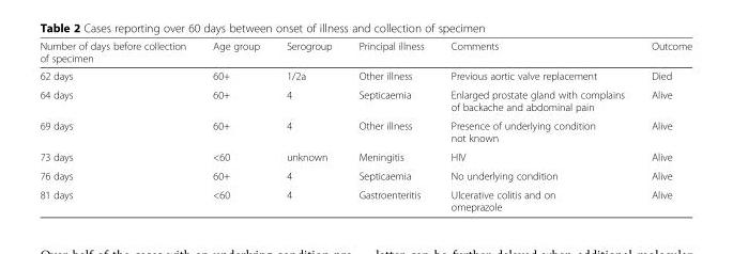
<table><thead><tr><td>Number of days before collection of specimen</td><td>Age group</td><td>Serogroup</td><td>Principal illness</td><td>Comments</td><td>Outcome</td></tr></thead><tbody><tr><td>62 days</td><td>60+</td><td>1/2a</td><td>Other illness</td><td>Previous aortic valve replacement</td><td>Died</td></tr><tr><td>64 days</td><td>60+</td><td>4</td><td>Septicaemia</td><td>Enlarged prostate gland with complains of backache and abdominal pain</td><td>Alive</td></tr><tr><td>69 days</td><td>60+</td><td>4</td><td>Other illness</td><td>Presence of underlying condition not known</td><td>Alive</td></tr><tr><td>73 days</td><td>&lt;60</td><td>unknown</td><td>Meningitis</td><td>HIV</td><td>Alive</td></tr><tr><td>76 days</td><td>60+</td><td>4</td><td>Septicaemia</td><td>No underlying condition</td><td>Alive</td></tr><tr><td>81 days</td><td>&lt;60</td><td>4</td><td>Gastroenteritis</td><td>Ulcerative colitis and on omeprazole</td><td>Alive</td></tr></tbody></table>